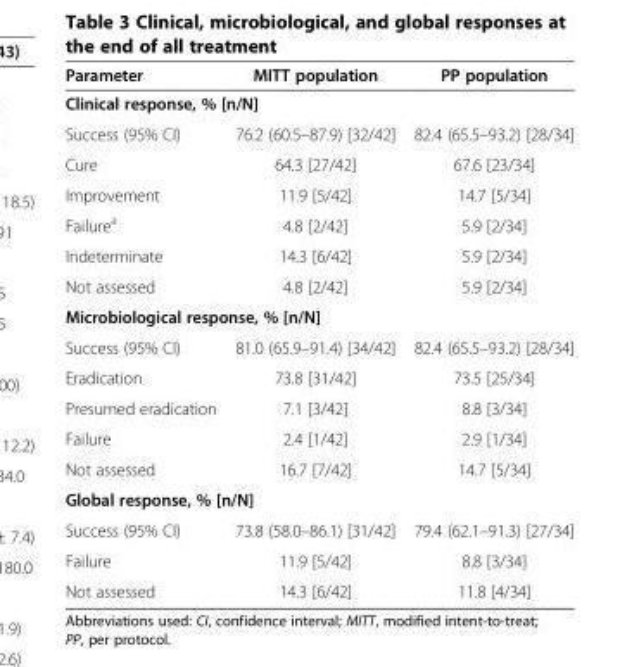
<table><thead><tr><td>Parameter</td><td>MITT population</td><td>PP population</td></tr></thead><tbody><tr><td colspan="3">Clinical response, % [n/N]</td></tr><tr><td>Success (95% CI)</td><td>76.2 (60.5–87.9) [32/42]</td><td>82.4 (65.5–93.2) [28/34]</td></tr><tr><td>Cure</td><td>64.3 [27/42]</td><td>67.6 [23/34]</td></tr><tr><td>Improvement</td><td>11.9 [5/42]</td><td>14.7 [5/34]</td></tr><tr><td>Failure<sup>a</sup></td><td>4.8 [2/42]</td><td>5.9 [2/34]</td></tr><tr><td>Indeterminate</td><td>14.3 [6/42]</td><td>5.9 [2/34]</td></tr><tr><td>Not assessed</td><td>4.8 [2/42]</td><td>5.9 [2/34]</td></tr><tr><td colspan="3">Microbiological response, % [n/N]</td></tr><tr><td>Success (95% CI)</td><td>81.0 (65.9–91.4) [34/42]</td><td>82.4 (65.5–93.2) [28/34]</td></tr><tr><td>Eradication</td><td>73.8 [31/42]</td><td>73.5 [25/34]</td></tr><tr><td>Presumed eradication</td><td>7.1 [3/42]</td><td>8.8 [3/34]</td></tr><tr><td>Failure</td><td>2.4 [1/42]</td><td>2.9 [1/34]</td></tr><tr><td>Not assessed</td><td>16.7 [7/42]</td><td>14.7 [5/34]</td></tr><tr><td colspan="3">Global response, % [n/N]</td></tr><tr><td>Success (95% CI)</td><td>73.8 (58.0–86.1) [31/42]</td><td>79.4 (62.1–91.3) [27/34]</td></tr><tr><td>Failure</td><td>11.9 [5/42]</td><td>8.8 [3/34]</td></tr><tr><td>Not assessed</td><td>14.3 [6/42]</td><td>11.8 [4/34]</td></tr></tbody></table>